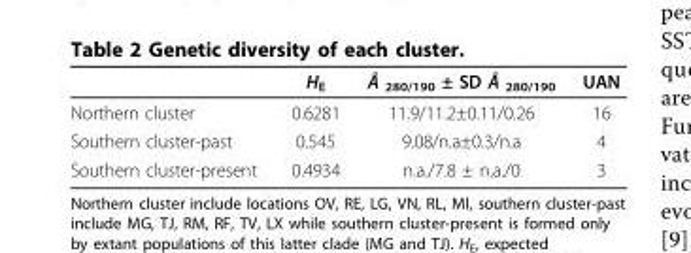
<table><thead><tr><td></td><td>H<sub>E</sub></td><td>Â <sub>280/190</sub> ± SD Â <sub>280/190</sub></td><td>UAN</td></tr></thead><tbody><tr><td>Northern cluster</td><td>0.6281</td><td>11.9/11.2±0.11/0.26</td><td>16</td></tr><tr><td>Southern cluster-past</td><td>0.545</td><td>9.08/n.a±0.3/n.a</td><td>4</td></tr><tr><td>Southern cluster-present</td><td>0.4934</td><td>n.a./7.8 ± n.a./0</td><td>3</td></tr></tbody></table>